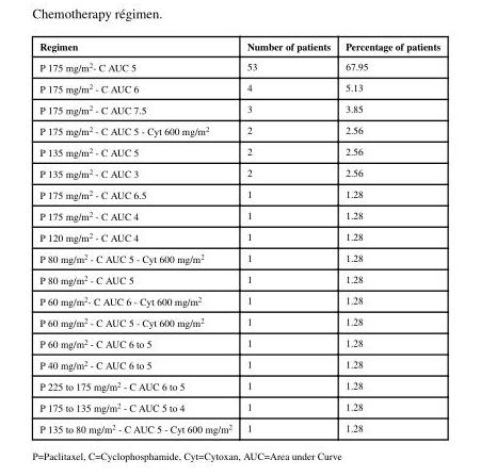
<table><thead><tr><td>Regimen</td><td>Number of patients</td><td>Percentage of patients</td></tr></thead><tbody><tr><td>P 175 mg/m<sup>2</sup>- C AUC 5</td><td>53</td><td>67.95</td></tr><tr><td>P 175 mg/m<sup>2</sup> - C AUC 6</td><td>4</td><td>5.13</td></tr><tr><td>P 175 mg/m<sup>2</sup> - C AUC 7.5</td><td>3</td><td>3.85</td></tr><tr><td>P 175 mg/m<sup>2</sup> - C AUC 5 - Cyt 600 mg/m<sup>2</sup></td><td>2</td><td>2.56</td></tr><tr><td>P 135 mg/m<sup>2</sup> - C AUC 5</td><td>2</td><td>2.56</td></tr><tr><td>P 135 mg/m<sup>2</sup> - C AUC 3</td><td>2</td><td>2.56</td></tr><tr><td>P 175 mg/m<sup>2</sup> - C AUC 6.5</td><td>1</td><td>1.28</td></tr><tr><td>P 175 mg/m<sup>2</sup> - C AUC 4</td><td>1</td><td>1.28</td></tr><tr><td>P 120 mg/m<sup>2</sup> - C AUC 4</td><td>1</td><td>1.28</td></tr><tr><td>P 80 mg/m<sup>2</sup> - C AUC 5 - Cyt 600 mg/m<sup>2</sup></td><td>1</td><td>1.28</td></tr><tr><td>P 80 mg/m<sup>2</sup> - C AUC 5</td><td>1</td><td>1.28</td></tr><tr><td>P 60 mg/m<sup>2</sup>- C AUC 6 - Cyt 600 mg/m<sup>2</sup></td><td>1</td><td>1.28</td></tr><tr><td>P 60 mg/m<sup>2</sup> - C AUC 5 - Cyt 600 mg/m<sup>2</sup></td><td>1</td><td>1.28</td></tr><tr><td>P 60 mg/m<sup>2</sup> - C AUC 6 to 5</td><td>1</td><td>1.28</td></tr><tr><td>P 40 mg/m<sup>2</sup> - C AUC 6 to 5</td><td>1</td><td>1.28</td></tr><tr><td>P 225 to 175 mg/m<sup>2</sup> - C AUC 6 to 5</td><td>1</td><td>1.28</td></tr><tr><td>P 175 to 135 mg/m<sup>2</sup> - C AUC 5 to 4</td><td>1</td><td>1.28</td></tr><tr><td>P 135 to 80 mg/m<sup>2</sup> - C AUC 5 - Cyt 600 mg/m<sup>2</sup></td><td>1</td><td>1.28</td></tr></tbody></table>